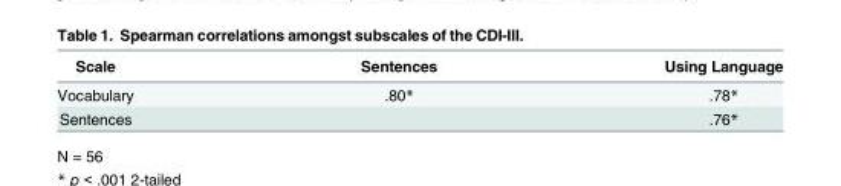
<table><thead><tr><td>Scale</td><td>Sentences</td><td>Using Language</td></tr></thead><tbody><tr><td>Vocabulary</td><td>.80*</td><td>.78*</td></tr><tr><td>Sentences</td><td></td><td>.76*</td></tr></tbody></table>